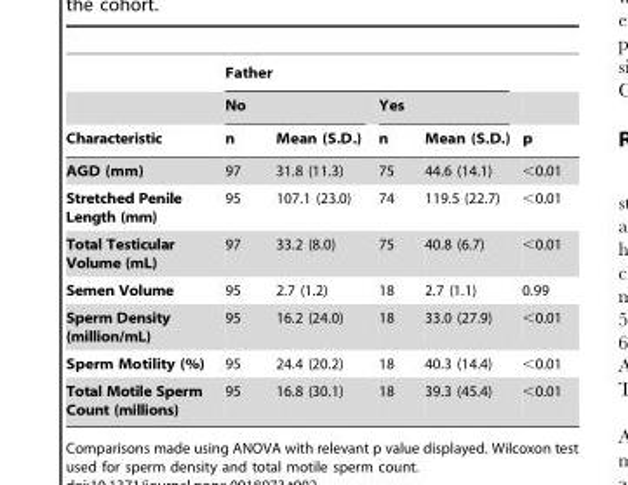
<table><thead><tr><td rowspan="3">Characteristic</td><td colspan="4">Father</td><td rowspan="3">p</td></tr><tr><td colspan="2">No</td><td colspan="2">Yes</td></tr><tr><td>n</td><td>Mean (S.D.)</td><td>n</td><td>Mean (S.D.)</td></tr></thead><tbody><tr><td>AGD (mm)</td><td>97</td><td>31.8 (11.3)</td><td>75</td><td>44.6 (14.1)</td><td>&lt;0.01</td></tr><tr><td>Stretched Penile Length (mm)</td><td>95</td><td>107.1 (23.0)</td><td>74</td><td>119.5 (22.7)</td><td>&lt;0.01</td></tr><tr><td>Total Testicular Volume (mL)</td><td>97</td><td>33.2 (8.0)</td><td>75</td><td>40.8 (6.7)</td><td>&lt;0.01</td></tr><tr><td>Semen Volume</td><td>95</td><td>2.7 (1.2)</td><td>18</td><td>2.7 (1.1)</td><td>0.99</td></tr><tr><td>Sperm Density (million/mL)</td><td>95</td><td>16.2 (24.0)</td><td>18</td><td>33.0 (27.9)</td><td>&lt;0.01</td></tr><tr><td>Sperm Motility (%)</td><td>95</td><td>24.4 (20.2)</td><td>18</td><td>40.3 (14.4)</td><td>&lt;0.01</td></tr><tr><td>Total Motile Sperm Count (millions)</td><td>95</td><td>16.8 (30.1)</td><td>18</td><td>39.3 (45.4)</td><td>&lt;0.01</td></tr></tbody></table>